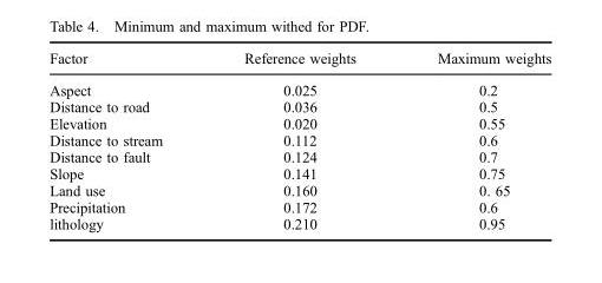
<table><thead><tr><td>Factor</td><td>Reference weights</td><td>Maximum weights</td></tr></thead><tbody><tr><td>Aspect</td><td>0.025</td><td>0.2</td></tr><tr><td>Distance to road</td><td>0.036</td><td>0.5</td></tr><tr><td>Elevation</td><td>0.020</td><td>0.55</td></tr><tr><td>Distance to stream</td><td>0.112</td><td>0.6</td></tr><tr><td>Distance to fault</td><td>0.124</td><td>0.7</td></tr><tr><td>Slope</td><td>0.141</td><td>0.75</td></tr><tr><td>Land use</td><td>0.160</td><td>0. 65</td></tr><tr><td>Precipitation</td><td>0.172</td><td>0.6</td></tr><tr><td>lithology</td><td>0.210</td><td>0.95</td></tr></tbody></table>